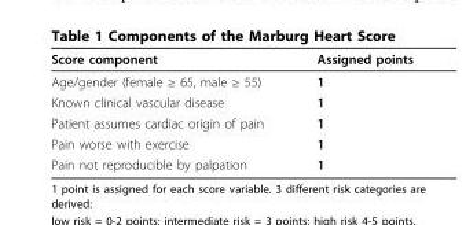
<table><thead><tr><td>Score component</td><td>Assigned points</td></tr></thead><tbody><tr><td>Age/gender (female ≥ 65, male ≥ 55)</td><td>1</td></tr><tr><td>Known clinical vascular disease</td><td>1</td></tr><tr><td>Patient assumes cardiac origin of pain</td><td>1</td></tr><tr><td>Pain worse with exercise</td><td>1</td></tr><tr><td>Pain not reproducible by palpation</td><td>1</td></tr></tbody></table>